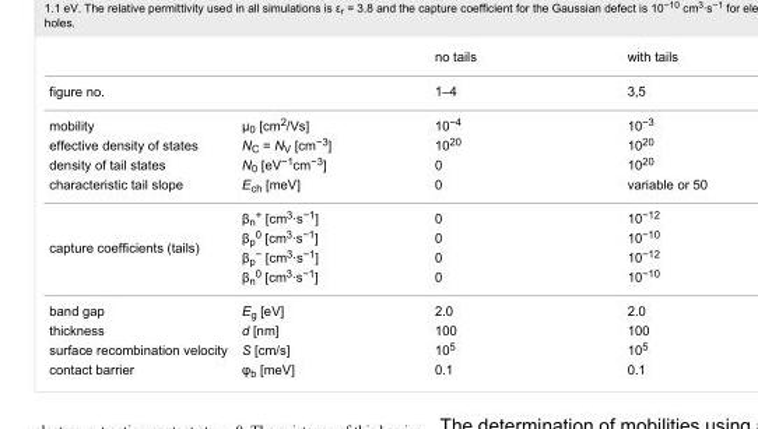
<table><thead><tr><td></td><td></td><td>no tails</td><td>with tails</td></tr></thead><tbody><tr><td>figure no.</td><td></td><td>1–4</td><td>3,5</td></tr><tr><td>mobility</td><td>μ<sub>0</sub> [cm<sup>2</sup>/Vs]</td><td>10<sup>−4</sup></td><td>10<sup>−3</sup></td></tr><tr><td>effective density of states</td><td>N<sub>C</sub> = N<sub>V</sub> [cm<sup>−3</sup>]</td><td>10<sup>20</sup></td><td>10<sup>20</sup></td></tr><tr><td>density of tail states</td><td>N<sub>0</sub> [eV<sup>−1</sup>cm<sup>−3</sup>]</td><td>0</td><td>10<sup>20</sup></td></tr><tr><td>characteristic tail slope</td><td>E<sub>ch</sub> [meV]</td><td>0</td><td>variable or 50</td></tr><tr><td rowspan="4">capture coefficients (tails)</td><td>β<sub>n</sub><sup>+</sup> [cm<sup>3</sup>·s<sup>−1</sup>]</td><td>0</td><td>10<sup>−12</sup></td></tr><tr><td>β<sub>p</sub><sup>0</sup> [cm<sup>3</sup>·s<sup>−1</sup>]</td><td>0</td><td>10<sup>−10</sup></td></tr><tr><td>β<sub>p</sub><sup>−</sup> [cm<sup>3</sup>·s<sup>−1</sup>]</td><td>0</td><td>10<sup>−12</sup></td></tr><tr><td>β<sub>n</sub><sup>0</sup> [cm<sup>3</sup>·s<sup>−1</sup>]</td><td>0</td><td>10<sup>−10</sup></td></tr><tr><td>band gap</td><td>E<sub>g</sub> [eV]</td><td>2.0</td><td>2.0</td></tr><tr><td>thickness</td><td>d [nm]</td><td>100</td><td>100</td></tr><tr><td>surface recombination velocity</td><td>S [cm/s]</td><td>10<sup>5</sup></td><td>10<sup>5</sup></td></tr><tr><td>contact barrier</td><td>φ<sub>b</sub> [meV]</td><td>0.1</td><td>0.1</td></tr></tbody></table>